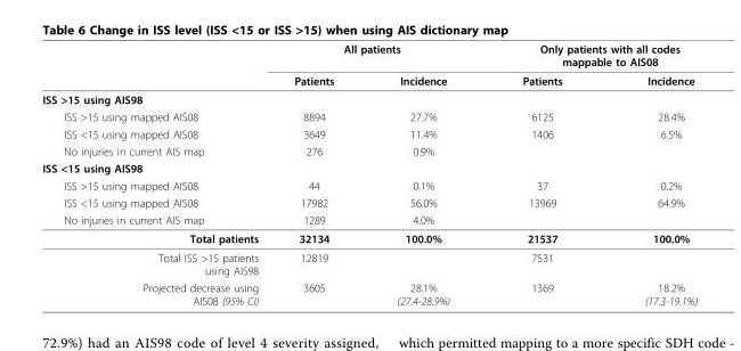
<table><thead><tr><td rowspan="2"></td><td colspan="2">All patients</td><td colspan="2">Only patients with all codes mappable to AIS08</td></tr><tr><td>Patients</td><td>Incidence</td><td>Patients</td><td>Incidence</td></tr></thead><tbody><tr><td colspan="5">ISS &gt;15 using AIS98</td></tr><tr><td>ISS &gt;15 using mapped AIS08</td><td>8894</td><td>27.7%</td><td>6125</td><td>28.4%</td></tr><tr><td>ISS &lt;15 using mapped AIS08</td><td>3649</td><td>11.4%</td><td>1406</td><td>6.5%</td></tr><tr><td>No injuries in current AIS map</td><td>276</td><td>0.9%</td><td></td><td></td></tr><tr><td colspan="5">ISS &lt;15 using AIS98</td></tr><tr><td>ISS &gt;15 using mapped AIS08</td><td>44</td><td>0.1%</td><td>37</td><td>0.2%</td></tr><tr><td>ISS &lt;15 using mapped AIS08</td><td>17982</td><td>56.0%</td><td>13969</td><td>64.9%</td></tr><tr><td>No injuries in current AIS map</td><td>1289</td><td>4.0%</td><td></td><td></td></tr><tr><td>Total patients</td><td>32134</td><td>100.0%</td><td>21537</td><td>100.0%</td></tr><tr><td>Total ISS &gt;15 patients using AIS98</td><td>12819</td><td></td><td>7531</td><td></td></tr><tr><td>Projected decrease using AIS08 (95% CI)</td><td>3605</td><td>28.1% (27.4-28.9%)</td><td>1369</td><td>18.2% (17.3-19.1%)</td></tr></tbody></table>